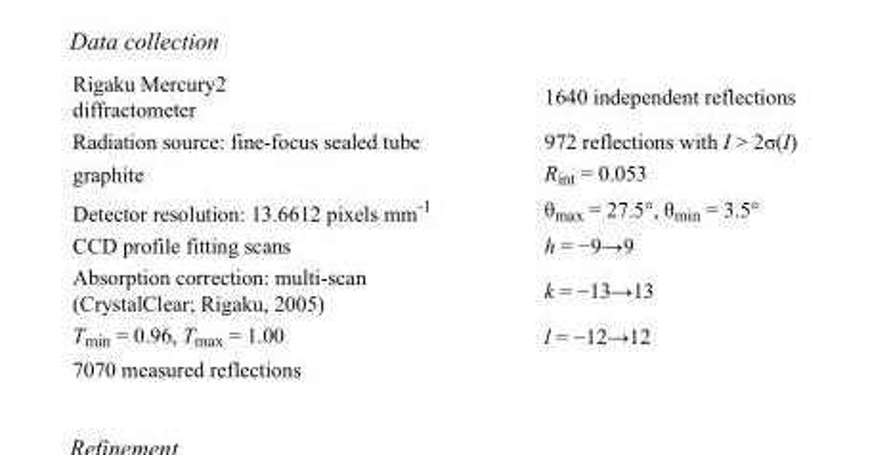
<table><tbody><tr><td>Rigaku Mercury2 diffractometer</td><td>1640 independent reflections</td></tr><tr><td>Radiation source: fine-focus sealed tube</td><td>972 reflections with I &gt; 2σ(I)</td></tr><tr><td>graphite</td><td>R<sub>int</sub> = 0.053</td></tr><tr><td>Detector resolution: 13.6612 pixels mm<sup>-1</sup></td><td>θ<sub>max</sub> = 27.5°, θ<sub>min</sub> = 3.5°</td></tr><tr><td>CCD profile fitting scans</td><td>h = −9→9</td></tr><tr><td>Absorption correction: multi-scan (CrystalClear; Rigaku, 2005)</td><td>k = −13→13</td></tr><tr><td>T<sub>min</sub> = 0.96, T<sub>max</sub> = 1.00</td><td>l = −12→12</td></tr><tr><td>7070 measured reflections</td><td></td></tr></tbody></table>